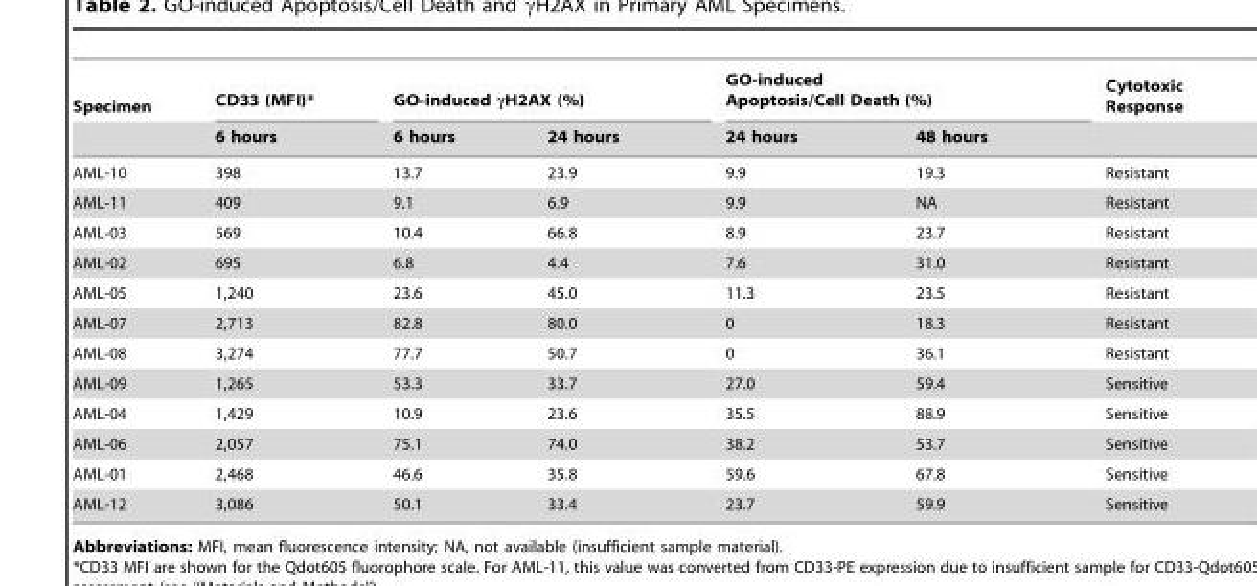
<table><thead><tr><td rowspan="2">Specimen</td><td rowspan="2">CD33 (MFI)* 6 hours</td><td colspan="2">GO-induced γH2AX (%)</td><td colspan="2">GO-induced Apoptosis/Cell Death (%)</td><td rowspan="2">Cytotoxic Response</td></tr><tr><td>6 hours</td><td>24 hours</td><td>24 hours</td><td>48 hours</td></tr></thead><tbody><tr><td>AML-10</td><td>398</td><td>13.7</td><td>23.9</td><td>9.9</td><td>19.3</td><td>Resistant</td></tr><tr><td>AML-11</td><td>409</td><td>9.1</td><td>6.9</td><td>9.9</td><td>NA</td><td>Resistant</td></tr><tr><td>AML-03</td><td>569</td><td>10.4</td><td>66.8</td><td>8.9</td><td>23.7</td><td>Resistant</td></tr><tr><td>AML-02</td><td>695</td><td>6.8</td><td>4.4</td><td>7.6</td><td>31.0</td><td>Resistant</td></tr><tr><td>AML-05</td><td>1,240</td><td>23.6</td><td>45.0</td><td>11.3</td><td>23.5</td><td>Resistant</td></tr><tr><td>AML-07</td><td>2,713</td><td>82.8</td><td>80.0</td><td>0</td><td>18.3</td><td>Resistant</td></tr><tr><td>AML-08</td><td>3,274</td><td>77.7</td><td>50.7</td><td>0</td><td>36.1</td><td>Resistant</td></tr><tr><td>AML-09</td><td>1,265</td><td>53.3</td><td>33.7</td><td>27.0</td><td>59.4</td><td>Sensitive</td></tr><tr><td>AML-04</td><td>1,429</td><td>10.9</td><td>23.6</td><td>35.5</td><td>88.9</td><td>Sensitive</td></tr><tr><td>AML-06</td><td>2,057</td><td>75.1</td><td>74.0</td><td>38.2</td><td>53.7</td><td>Sensitive</td></tr><tr><td>AML-01</td><td>2,468</td><td>46.6</td><td>35.8</td><td>59.6</td><td>67.8</td><td>Sensitive</td></tr><tr><td>AML-12</td><td>3,086</td><td>50.1</td><td>33.4</td><td>23.7</td><td>59.9</td><td>Sensitive</td></tr></tbody></table>